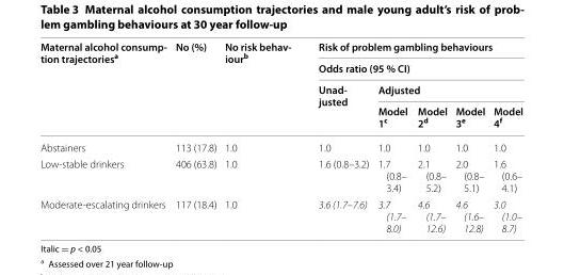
<table><thead><tr><td rowspan="4">Maternal alcohol consump- tion trajectoriesa</td><td rowspan="4">No (%)</td><td rowspan="4">No risk behav- iourb</td><td rowspan="2" colspan="5">Risk of problem gambling behaviours Odds ratio (95 % CI)</td></tr><tr></tr><tr><td rowspan="2">Unad- justed</td><td colspan="4">Adjusted</td></tr><tr><td>Model 1<sup>c</sup></td><td>Model 2<sup>d</sup></td><td>Model 3<sup>e</sup></td><td>Model 4<sup>f</sup></td></tr></thead><tbody><tr><td>Abstainers</td><td>113 (17.8)</td><td>1.0</td><td>1.0</td><td>1.0</td><td>1.0</td><td>1.0</td><td>1.0</td></tr><tr><td>Low-stable drinkers</td><td>406 (63.8)</td><td>1.0</td><td>1.6 (0.8–3.2)</td><td>1.7 (0.8– 3.4)</td><td>2.1 (0.8– 5.2)</td><td>2.0 (0.8– 5.1)</td><td>1.6 (0.6– 4.1)</td></tr><tr><td>Moderate-escalating drinkers</td><td>117 (18.4)</td><td>1.0</td><td>3.6 (1.7–7.6)</td><td>3.7 (1.7– 8.0)</td><td>4.6 (1.7– 12.6)</td><td>4.6 (1.6– 12.8)</td><td>3.0 (1.0– 8.7)</td></tr></tbody></table>